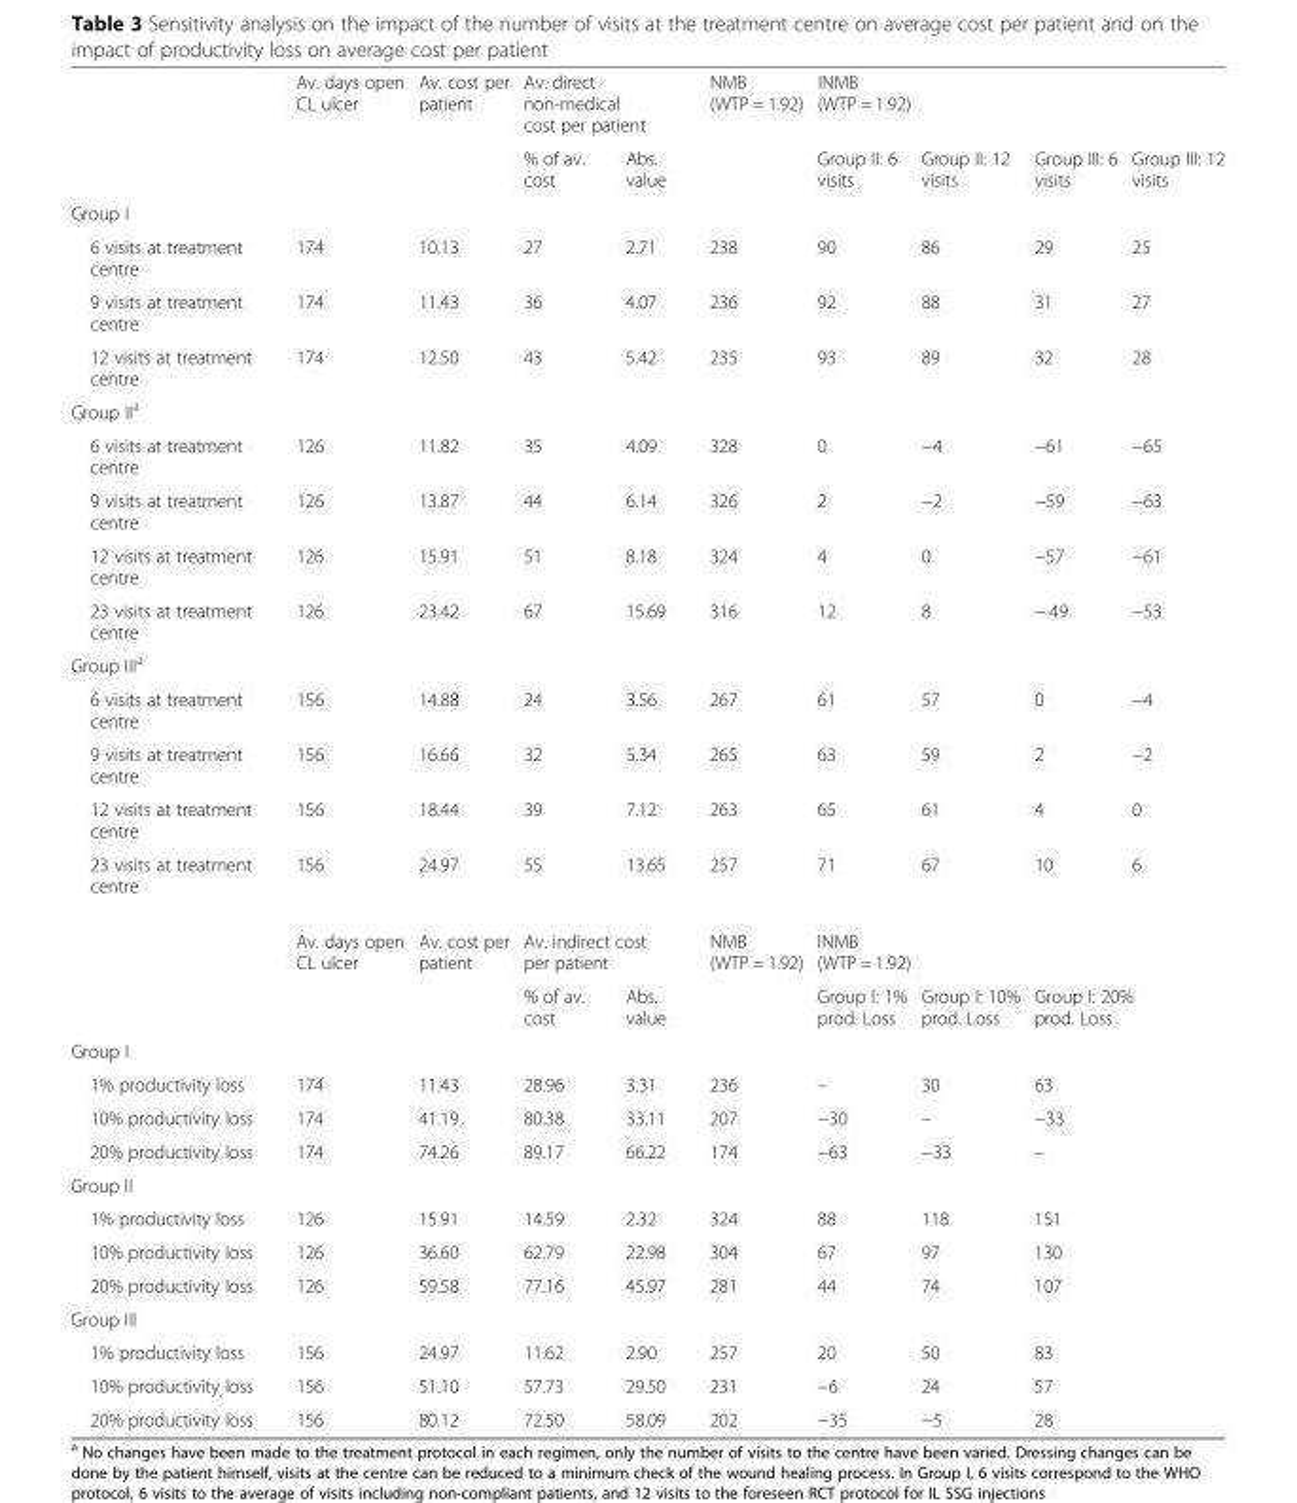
<table><thead><tr><td rowspan="2"></td><td rowspan="2">Av. days open CL ulcer</td><td rowspan="2">Av. cost per patient</td><td colspan="2">Av. direct non-medical cost per patient</td><td rowspan="2">NMB (WTP = 1.92)</td><td colspan="4">INMB (WTP = 1.92)</td></tr><tr><td>% of av. cost</td><td>Abs. value</td><td>Group II: 6 visits</td><td>Group II: 12 visits</td><td>Group III: 6 visits</td><td>Group III: 12 visits</td></tr></thead><tbody><tr><td colspan="10">Group I</td></tr><tr><td>6 visits at treatment centre</td><td>174</td><td>10.13</td><td>27</td><td>2.71</td><td>238</td><td>90</td><td>86</td><td>29</td><td>25</td></tr><tr><td>9 visits at treatment centre</td><td>174</td><td>11.43</td><td>36</td><td>4.07</td><td>236</td><td>92</td><td>88</td><td>31</td><td>27</td></tr><tr><td>12 visits at treatment centre</td><td>174</td><td>12.50</td><td>43</td><td>5.42</td><td>235</td><td>93</td><td>89</td><td>32</td><td>28</td></tr><tr><td colspan="10">Group II<sup>a</sup></td></tr><tr><td>6 visits at treatment centre</td><td>126</td><td>11.82</td><td>35</td><td>4.09</td><td>328</td><td>0</td><td>−4</td><td>−61</td><td>−65</td></tr><tr><td>9 visits at treatment centre</td><td>126</td><td>13.87</td><td>44</td><td>6.14</td><td>326</td><td>2</td><td>−2</td><td>−59</td><td>−63</td></tr><tr><td>12 visits at treatment centre</td><td>126</td><td>15.91</td><td>51</td><td>8.18</td><td>324</td><td>4</td><td>0</td><td>−57</td><td>−61</td></tr><tr><td>23 visits at treatment centre</td><td>126</td><td>23.42</td><td>67</td><td>15.69</td><td>316</td><td>12</td><td>8</td><td>− 49</td><td>−53</td></tr><tr><td colspan="10">Group III<sup>a</sup></td></tr><tr><td>6 visits at treatment centre</td><td>156</td><td>14.88</td><td>24</td><td>3.56</td><td>267</td><td>61</td><td>57</td><td>0</td><td>−4</td></tr><tr><td>9 visits at treatment centre</td><td>156</td><td>16.66</td><td>32</td><td>5.34</td><td>265</td><td>63</td><td>59</td><td>2</td><td>−2</td></tr><tr><td>12 visits at treatment centre</td><td>156</td><td>18.44</td><td>39</td><td>7.12</td><td>263</td><td>65</td><td>61</td><td>4</td><td>0</td></tr><tr><td rowspan="3">23 visits at treatment centre</td><td>156</td><td>24.97</td><td>55</td><td>13.65</td><td>257</td><td>71</td><td>67</td><td>10</td><td>6</td></tr><tr><td rowspan="2">Av. days open CL ulcer</td><td rowspan="2">Av. cost per patient</td><td colspan="2">Av. indirect cost per patient</td><td rowspan="2">NMB (WTP = 1.92)</td><td colspan="4">INMB (WTP = 1.92)</td></tr><tr><td>% of av. cost</td><td>Abs. value</td><td>Group I: 1% prod. Loss</td><td>Group I: 10% prod. Loss</td><td colspan="2">Group I: 20% prod. Loss</td></tr><tr><td colspan="10">Group I</td></tr><tr><td>1% productivity loss</td><td>174</td><td>11.43</td><td>28.96</td><td>3.31</td><td>236</td><td>–</td><td>30</td><td colspan="2">63</td></tr><tr><td>10% productivity loss</td><td>174</td><td>41.19</td><td>80.38</td><td>33.11</td><td>207</td><td>−30</td><td>–</td><td colspan="2">−33</td></tr><tr><td>20% productivity loss</td><td>174</td><td>74.26</td><td>89.17</td><td>66.22</td><td>174</td><td>−63</td><td>−33</td><td colspan="2">–</td></tr><tr><td colspan="10">Group II</td></tr><tr><td>1% productivity loss</td><td>126</td><td>15.91</td><td>14.59</td><td>2.32</td><td>324</td><td>88</td><td>118</td><td colspan="2">151</td></tr><tr><td>10% productivity loss</td><td>126</td><td>36.60</td><td>62.79</td><td>22.98</td><td>304</td><td>67</td><td>97</td><td colspan="2">130</td></tr><tr><td>20% productivity loss</td><td>126</td><td>59.58</td><td>77.16</td><td>45.97</td><td>281</td><td>44</td><td>74</td><td colspan="2">107</td></tr><tr><td colspan="10">Group III</td></tr><tr><td>1% productivity loss</td><td>156</td><td>24.97</td><td>11.62</td><td>2.90</td><td>257</td><td>20</td><td>50</td><td colspan="2">83</td></tr><tr><td>10% productivity loss</td><td>156</td><td>51.10</td><td>57.73</td><td>29.50</td><td>231</td><td>−6</td><td>24</td><td colspan="2">57</td></tr><tr><td>20% productivity loss</td><td>156</td><td>80.12</td><td>72.50</td><td>58.09</td><td>202</td><td>−35</td><td>−5</td><td colspan="2">28</td></tr></tbody></table>